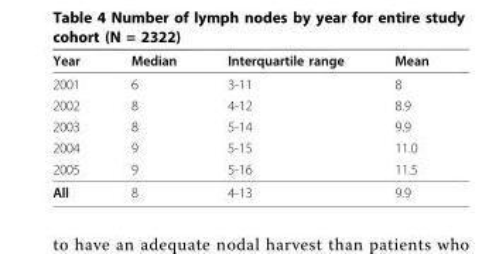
<table><thead><tr><td>Year</td><td>Median</td><td>Interquartile range</td><td>Mean</td></tr></thead><tbody><tr><td>2001</td><td>6</td><td>3-11</td><td>8</td></tr><tr><td>2002</td><td>8</td><td>4-12</td><td>8.9</td></tr><tr><td>2003</td><td>8</td><td>5-14</td><td>9.9</td></tr><tr><td>2004</td><td>9</td><td>5-15</td><td>11.0</td></tr><tr><td>2005</td><td>9</td><td>5-16</td><td>11.5</td></tr><tr><td>All</td><td>8</td><td>4-13</td><td>9.9</td></tr></tbody></table>